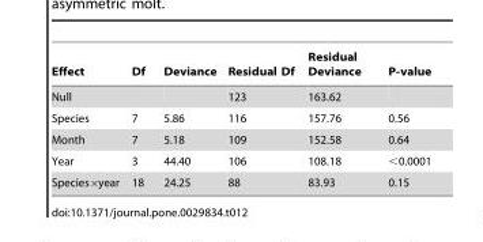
<table><thead><tr><td>Effect</td><td>Df</td><td>Deviance</td><td>Residual Df</td><td>Residual Deviance</td><td>P-value</td></tr></thead><tbody><tr><td>Null</td><td></td><td></td><td>123</td><td>163.62</td><td></td></tr><tr><td>Species</td><td>7</td><td>5.86</td><td>116</td><td>157.76</td><td>0.56</td></tr><tr><td>Month</td><td>7</td><td>5.18</td><td>109</td><td>152.58</td><td>0.64</td></tr><tr><td>Year</td><td>3</td><td>44.40</td><td>106</td><td>108.18</td><td>&lt;0.0001</td></tr><tr><td>Species×year</td><td>18</td><td>24.25</td><td>88</td><td>83.93</td><td>0.15</td></tr></tbody></table>